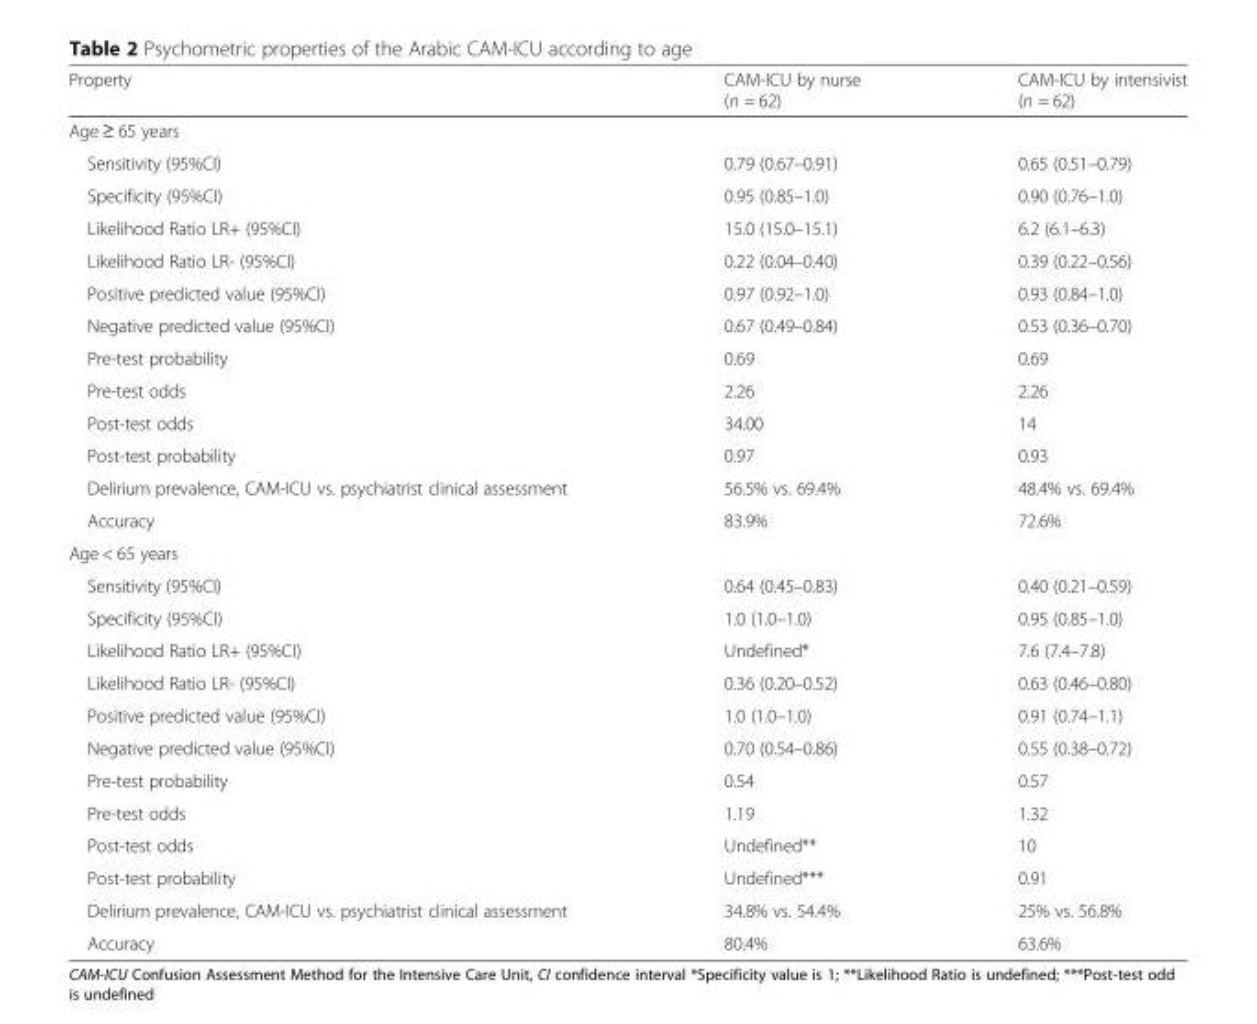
<table><thead><tr><td>Property</td><td>CAM-ICU by nurse (n = 62)</td><td>CAM-ICU by intensivist (n = 62)</td></tr></thead><tbody><tr><td colspan="3">Age ≥ 65 years</td></tr><tr><td>Sensitivity (95%CI)</td><td>0.79 (0.67–0.91)</td><td>0.65 (0.51–0.79)</td></tr><tr><td>Specificity (95%CI)</td><td>0.95 (0.85–1.0)</td><td>0.90 (0.76–1.0)</td></tr><tr><td>Likelihood Ratio LR+ (95%CI)</td><td>15.0 (15.0–15.1)</td><td>6.2 (6.1–6.3)</td></tr><tr><td>Likelihood Ratio LR- (95%CI)</td><td>0.22 (0.04–0.40)</td><td>0.39 (0.22–0.56)</td></tr><tr><td>Positive predicted value (95%CI)</td><td>0.97 (0.92–1.0)</td><td>0.93 (0.84–1.0)</td></tr><tr><td>Negative predicted value (95%CI)</td><td>0.67 (0.49–0.84)</td><td>0.53 (0.36–0.70)</td></tr><tr><td>Pre-test probability</td><td>0.69</td><td>0.69</td></tr><tr><td>Pre-test odds</td><td>2.26</td><td>2.26</td></tr><tr><td>Post-test odds</td><td>34.00</td><td>14</td></tr><tr><td>Post-test probability</td><td>0.97</td><td>0.93</td></tr><tr><td>Delirium prevalence, CAM-ICU vs. psychiatrist clinical assessment</td><td>56.5% vs. 69.4%</td><td>48.4% vs. 69.4%</td></tr><tr><td>Accuracy</td><td>83.9%</td><td>72.6%</td></tr><tr><td colspan="3">Age &lt; 65 years</td></tr><tr><td>Sensitivity (95%CI)</td><td>0.64 (0.45–0.83)</td><td>0.40 (0.21–0.59)</td></tr><tr><td>Specificity (95%CI)</td><td>1.0 (1.0–1.0)</td><td>0.95 (0.85–1.0)</td></tr><tr><td>Likelihood Ratio LR+ (95%CI)</td><td>Undefined*</td><td>7.6 (7.4–7.8)</td></tr><tr><td>Likelihood Ratio LR- (95%CI)</td><td>0.36 (0.20–0.52)</td><td>0.63 (0.46–0.80)</td></tr><tr><td>Positive predicted value (95%CI)</td><td>1.0 (1.0–1.0)</td><td>0.91 (0.74–1.1)</td></tr><tr><td>Negative predicted value (95%CI)</td><td>0.70 (0.54–0.86)</td><td>0.55 (0.38–0.72)</td></tr><tr><td>Pre-test probability</td><td>0.54</td><td>0.57</td></tr><tr><td>Pre-test odds</td><td>1.19</td><td>1.32</td></tr><tr><td>Post-test odds</td><td>Undefined**</td><td>10</td></tr><tr><td>Post-test probability</td><td>Undefined***</td><td>0.91</td></tr><tr><td>Delirium prevalence, CAM-ICU vs. psychiatrist clinical assessment</td><td>34.8% vs. 54.4%</td><td>25% vs. 56.8%</td></tr><tr><td>Accuracy</td><td>80.4%</td><td>63.6%</td></tr></tbody></table>